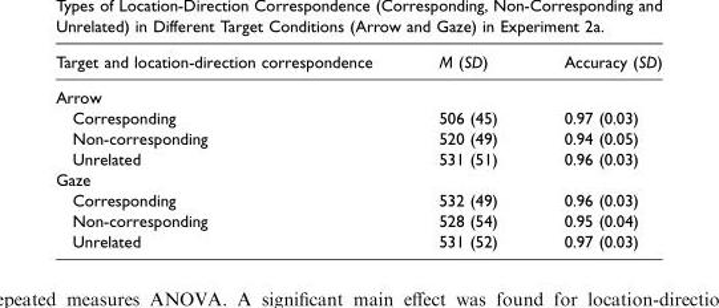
<table><thead><tr><td>Target and location-direction correspondence</td><td>M (SD)</td><td>Accuracy (SD)</td></tr></thead><tbody><tr><td colspan="3">Arrow</td></tr><tr><td>Corresponding</td><td>506 (45)</td><td>0.97 (0.03)</td></tr><tr><td>Non-corresponding</td><td>520 (49)</td><td>0.94 (0.05)</td></tr><tr><td>Unrelated</td><td>531 (51)</td><td>0.96 (0.03)</td></tr><tr><td colspan="3">Gaze</td></tr><tr><td>Corresponding</td><td>532 (49)</td><td>0.96 (0.03)</td></tr><tr><td>Non-corresponding</td><td>528 (54)</td><td>0.95 (0.04)</td></tr><tr><td>Unrelated</td><td>531 (52)</td><td>0.97 (0.03)</td></tr></tbody></table>